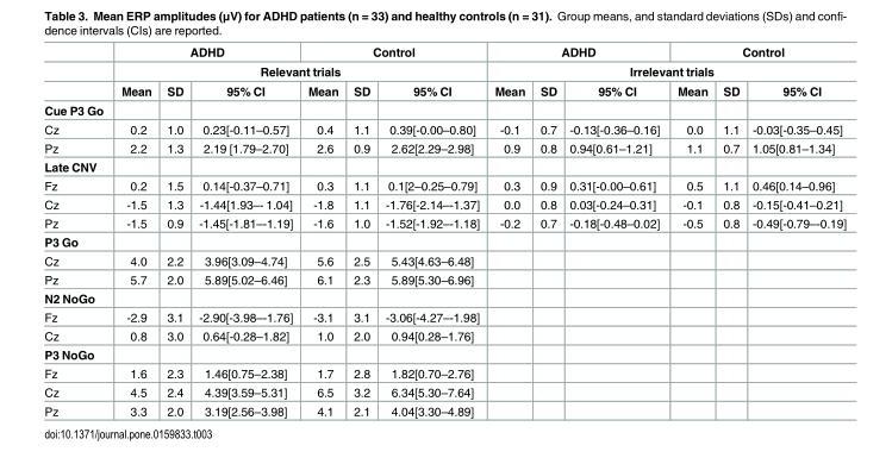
<table><thead><tr><td rowspan="3"></td><td colspan="3">ADHD</td><td colspan="3">Control</td><td colspan="3">ADHD</td><td colspan="3">Control</td></tr><tr><td colspan="6">Relevant trials</td><td colspan="6">Irrelevant trials</td></tr><tr><td>Mean</td><td>SD</td><td>95% CI</td><td>Mean</td><td>SD</td><td>95% CI</td><td>Mean</td><td>SD</td><td>95% CI</td><td>Mean</td><td>SD</td><td>95% CI</td></tr></thead><tbody><tr><td colspan="13">Cue P3 Go</td></tr><tr><td>Cz</td><td>0.2</td><td>1.0</td><td>0.23[-0.11–0.57]</td><td>0.4</td><td>1.1</td><td>0.39[-0.00–0.80]</td><td>-0.1</td><td>0.7</td><td>-0.13[-0.36–0.16]</td><td>0.0</td><td>1.1</td><td>-0.03[-0.35–0.45]</td></tr><tr><td>Pz</td><td>2.2</td><td>1.3</td><td>2.19 [1.79–2.70]</td><td>2.6</td><td>0.9</td><td>2.62[2.29–2.98]</td><td>0.9</td><td>0.8</td><td>0.94[0.61–1.21]</td><td>1.1</td><td>0.7</td><td>1.05[0.81–1.34]</td></tr><tr><td colspan="13">Late CNV</td></tr><tr><td>Fz</td><td>0.2</td><td>1.5</td><td>0.14[-0.37–0.71]</td><td>0.3</td><td>1.1</td><td>0.1[2–0.25–0.79]</td><td>0.3</td><td>0.9</td><td>0.31[-0.00–0.61]</td><td>0.5</td><td>1.1</td><td>0.46[0.14–0.96]</td></tr><tr><td>Cz</td><td>-1.5</td><td>1.3</td><td>-1.44[1.93–- 1.04]</td><td>-1.8</td><td>1.1</td><td>-1.76[-2.14–-1.37]</td><td>0.0</td><td>0.8</td><td>0.03[-0.24–0.31]</td><td>-0.1</td><td>0.8</td><td>-0.15[-0.41–0.21]</td></tr><tr><td>Pz</td><td>-1.5</td><td>0.9</td><td>-1.45[-1.81–-1.19]</td><td>-1.6</td><td>1.0</td><td>-1.52[-1.92–-1.18]</td><td>-0.2</td><td>0.7</td><td>-0.18[-0.48–0.02]</td><td>-0.5</td><td>0.8</td><td>-0.49[-0.79–-0.19]</td></tr><tr><td colspan="13">P3 Go</td></tr><tr><td>Cz</td><td>4.0</td><td>2.2</td><td>3.96[3.09–4.74]</td><td>5.6</td><td>2.5</td><td>5.43[4.63–6.48]</td><td></td><td></td><td></td><td></td><td></td><td></td></tr><tr><td>Pz</td><td>5.7</td><td>2.0</td><td>5.89[5.02–6.46]</td><td>6.1</td><td>2.3</td><td>5.89[5.30–6.96]</td><td></td><td></td><td></td><td></td><td></td><td></td></tr><tr><td colspan="13">N2 NoGo</td></tr><tr><td>Fz</td><td>-2.9</td><td>3.1</td><td>-2.90[-3.98–-1.76]</td><td>-3.1</td><td>3.1</td><td>-3.06[-4.27–-1.98]</td><td></td><td></td><td></td><td></td><td></td><td></td></tr><tr><td>Cz</td><td>0.8</td><td>3.0</td><td>0.64[-0.28–1.82]</td><td>1.0</td><td>2.0</td><td>0.94[0.28–1.76]</td><td></td><td></td><td></td><td></td><td></td><td></td></tr><tr><td colspan="13">P3 NoGo</td></tr><tr><td>Fz</td><td>1.6</td><td>2.3</td><td>1.46[0.75–2.38]</td><td>1.7</td><td>2.8</td><td>1.82[0.70–2.76]</td><td></td><td></td><td></td><td></td><td></td><td></td></tr><tr><td>Cz</td><td>4.5</td><td>2.4</td><td>4.39[3.59–5.31]</td><td>6.5</td><td>3.2</td><td>6.34[5.30–7.64]</td><td></td><td></td><td></td><td></td><td></td><td></td></tr><tr><td>Pz</td><td>3.3</td><td>2.0</td><td>3.19[2.56–3.98]</td><td>4.1</td><td>2.1</td><td>4.04[3.30–4.89]</td><td></td><td></td><td></td><td></td><td></td><td></td></tr></tbody></table>